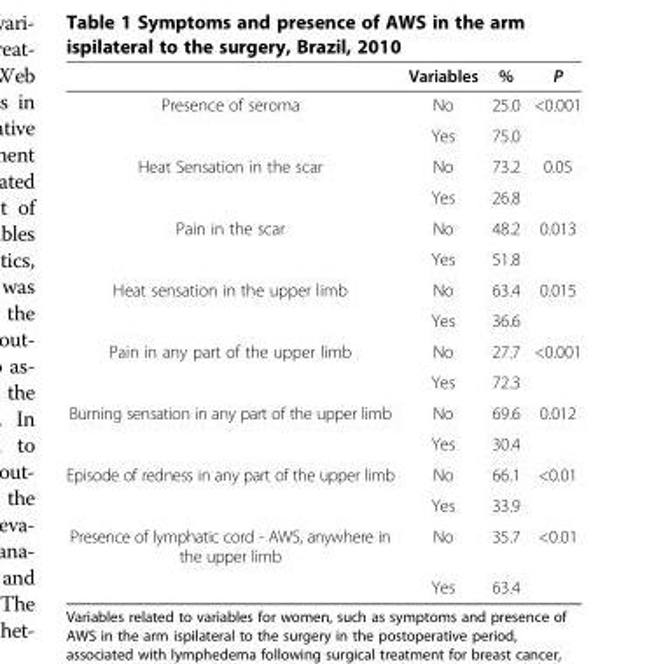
<table><thead><tr><td></td><td>Variables</td><td>%</td><td>P</td></tr></thead><tbody><tr><td rowspan="2">Presence of seroma</td><td>No</td><td>25.0</td><td>&lt;0.001</td></tr><tr><td>Yes</td><td>75.0</td><td></td></tr><tr><td rowspan="2">Heat Sensation in the scar</td><td>No</td><td>73.2</td><td>0.05</td></tr><tr><td>Yes</td><td>26.8</td><td></td></tr><tr><td rowspan="2">Pain in the scar</td><td>No</td><td>48.2</td><td>0.013</td></tr><tr><td>Yes</td><td>51.8</td><td></td></tr><tr><td rowspan="2">Heat sensation in the upper limb</td><td>No</td><td>63.4</td><td>0.015</td></tr><tr><td>Yes</td><td>36.6</td><td></td></tr><tr><td rowspan="2">Pain in any part of the upper limb</td><td>No</td><td>27.7</td><td>&lt;0.001</td></tr><tr><td>Yes</td><td>72.3</td><td></td></tr><tr><td rowspan="2">Burning sensation in any part of the upper limb</td><td>No</td><td>69.6</td><td>0.012</td></tr><tr><td>Yes</td><td>30.4</td><td></td></tr><tr><td rowspan="2">Episode of redness in any part of the upper limb</td><td>No</td><td>66.1</td><td>&lt;0.01</td></tr><tr><td>Yes</td><td>33.9</td><td></td></tr><tr><td rowspan="2">Presence of lymphatic cord - AWS, anywhere in the upper limb</td><td>No</td><td>35.7</td><td>&lt;0.01</td></tr><tr><td>Yes</td><td>63.4</td><td></td></tr></tbody></table>